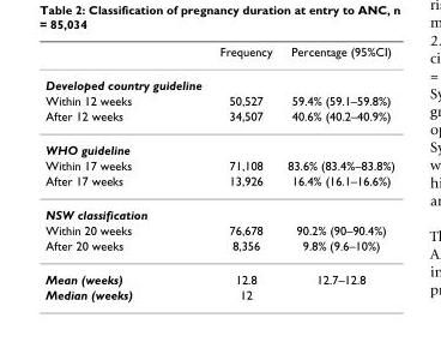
<table><thead><tr><td></td><td>Frequency</td><td>Percentage (95%CI)</td></tr></thead><tbody><tr><td colspan="3">Developed country guideline</td></tr><tr><td>Within 12 weeks</td><td>50,527</td><td>59.4% (59.1–59.8%)</td></tr><tr><td>After 12 weeks</td><td>34,507</td><td>40.6% (40.2–40.9%)</td></tr><tr><td colspan="3">WHO guideline</td></tr><tr><td>Within 17 weeks</td><td>71,108</td><td>83.6% (83.4%–83.8%)</td></tr><tr><td>After 17 weeks</td><td>13,926</td><td>16.4% (16.1–16.6%)</td></tr><tr><td colspan="3">NSW classification</td></tr><tr><td>Within 20 weeks</td><td>76,678</td><td>90.2% (90–90.4%)</td></tr><tr><td>After 20 weeks</td><td>8,356</td><td>9.8% (9.6–10%)</td></tr><tr><td>Mean (weeks)</td><td>12.8</td><td>12.7–12.8</td></tr><tr><td>Median (weeks)</td><td>12</td><td></td></tr></tbody></table>